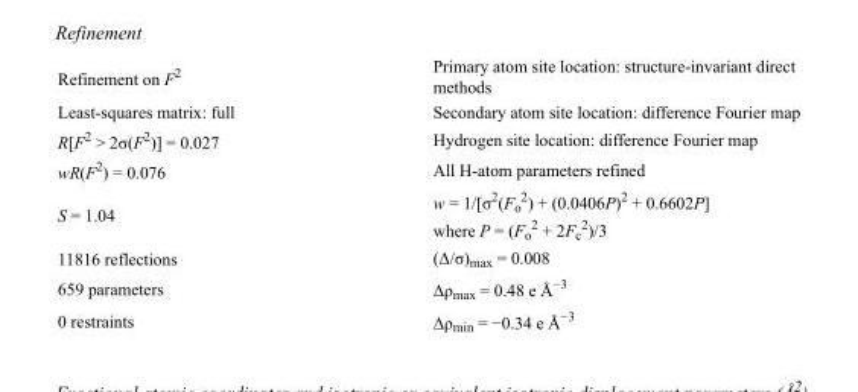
<table><tbody><tr><td>Refinement on F<sup>2</sup></td><td>Primary atom site location: structure-invariant direct methods</td></tr><tr><td>Least-squares matrix: full</td><td>Secondary atom site location: difference Fourier map</td></tr><tr><td>R[F<sup>2</sup> &gt; 2σ(F<sup>2</sup>)] = 0.027</td><td>Hydrogen site location: difference Fourier map</td></tr><tr><td>wR(F<sup>2</sup>) = 0.076</td><td>All H-atom parameters refined</td></tr><tr><td>S = 1.04</td><td>w = 1/[σ<sup>2</sup>(F<sub>o</sub> <sup>2</sup>) + (0.0406P)<sup>2</sup> + 0.6602P] where P = (F<sub>o</sub> <sup>2</sup> + 2F<sub>c</sub> <sup>2</sup>)/3</td></tr><tr><td>11816 reflections</td><td>(Δ/σ)<sub>max</sub> = 0.008</td></tr><tr><td>659 parameters</td><td>Δρ<sub>max</sub> = 0.48 e Å<sup>−3</sup></td></tr><tr><td>0 restraints</td><td>Δρ<sub>min</sub> = −0.34 e Å<sup>−3</sup></td></tr></tbody></table>